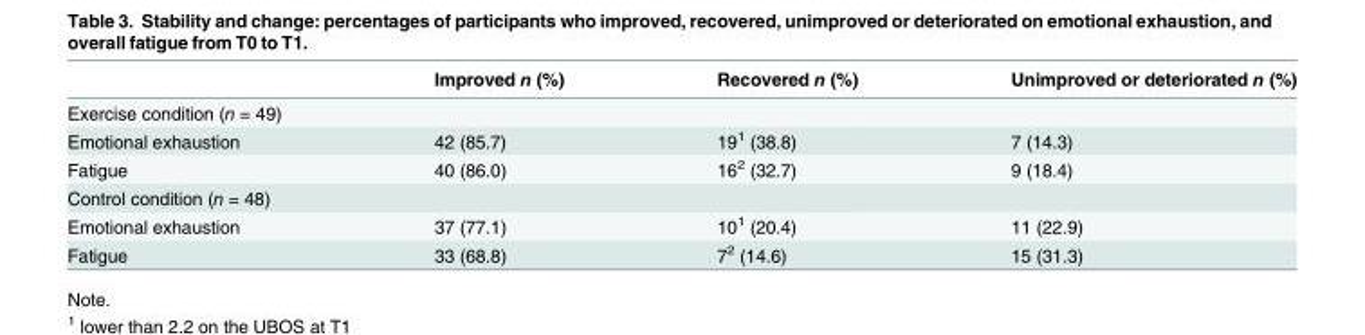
<table><thead><tr><td></td><td>Improved n (%)</td><td>Recovered n (%)</td><td>Unimproved or deteriorated n (%)</td></tr></thead><tbody><tr><td colspan="4">Exercise condition (n = 49)</td></tr><tr><td>Emotional exhaustion</td><td>42 (85.7)</td><td>19<sup>1</sup> (38.8)</td><td>7 (14.3)</td></tr><tr><td>Fatigue</td><td>40 (86.0)</td><td>16<sup>2</sup> (32.7)</td><td>9 (18.4)</td></tr><tr><td colspan="4">Control condition (n = 48)</td></tr><tr><td>Emotional exhaustion</td><td>37 (77.1)</td><td>10<sup>1</sup> (20.4)</td><td>11 (22.9)</td></tr><tr><td>Fatigue</td><td>33 (68.8)</td><td>7<sup>2</sup> (14.6)</td><td>15 (31.3)</td></tr></tbody></table>